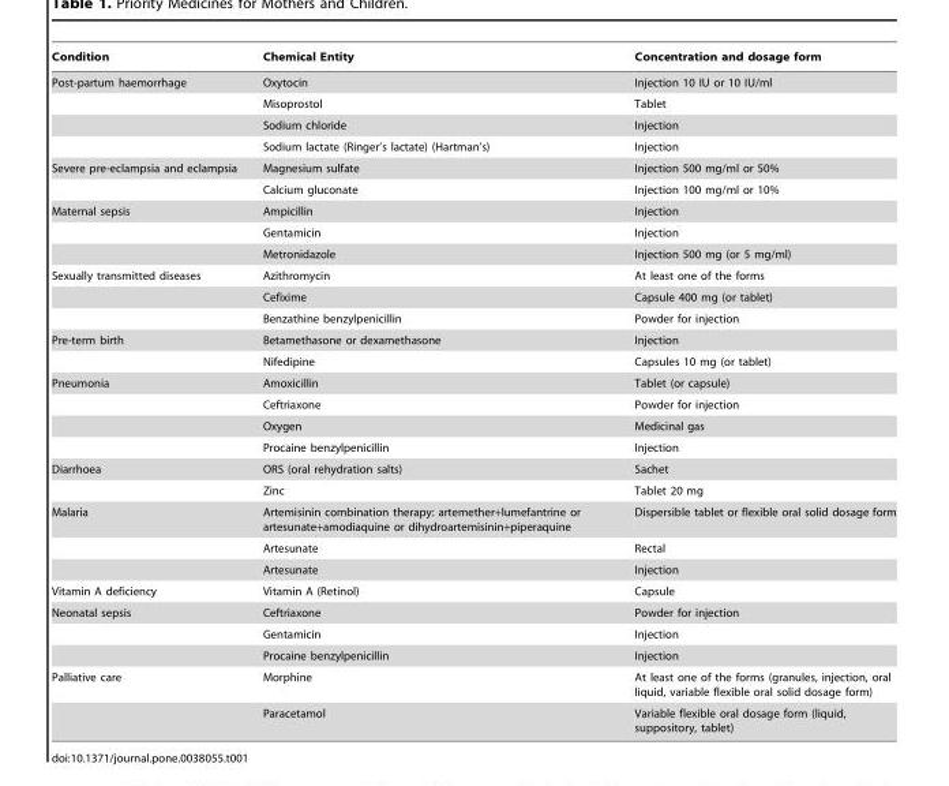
<table><thead><tr><td>Condition</td><td>Chemical Entity</td><td>Concentration and dosage form</td></tr></thead><tbody><tr><td rowspan="4">Post-partum haemorrhage</td><td>Oxytocin</td><td>Injection 10 IU or 10 IU/ml</td></tr><tr><td>Misoprostol</td><td>Tablet</td></tr><tr><td>Sodium chloride</td><td>Injection</td></tr><tr><td>Sodium lactate (Ringer’s lactate) (Hartman’s)</td><td>Injection</td></tr><tr><td rowspan="2">Severe pre-eclampsia and eclampsia</td><td>Magnesium sulfate</td><td>Injection 500 mg/ml or 50%</td></tr><tr><td>Calcium gluconate</td><td>Injection 100 mg/ml or 10%</td></tr><tr><td rowspan="3">Maternal sepsis</td><td>Ampicillin</td><td>Injection</td></tr><tr><td>Gentamicin</td><td>Injection</td></tr><tr><td>Metronidazole</td><td>Injection 500 mg (or 5 mg/ml)</td></tr><tr><td rowspan="3">Sexually transmitted diseases</td><td>Azithromycin</td><td>At least one of the forms</td></tr><tr><td>Cefixime</td><td>Capsule 400 mg (or tablet)</td></tr><tr><td>Benzathine benzylpenicillin</td><td>Powder for injection</td></tr><tr><td rowspan="2">Pre-term birth</td><td>Betamethasone or dexamethasone</td><td>Injection</td></tr><tr><td>Nifedipine</td><td>Capsules 10 mg (or tablet)</td></tr><tr><td rowspan="4">Pneumonia</td><td>Amoxicillin</td><td>Tablet (or capsule)</td></tr><tr><td>Ceftriaxone</td><td>Powder for injection</td></tr><tr><td>Oxygen</td><td>Medicinal gas</td></tr><tr><td>Procaine benzylpenicillin</td><td>Injection</td></tr><tr><td rowspan="2">Diarrhoea</td><td>ORS (oral rehydration salts)</td><td>Sachet</td></tr><tr><td>Zinc</td><td>Tablet 20 mg</td></tr><tr><td rowspan="3">Malaria</td><td>Artemisinin combination therapy: artemether+lumefantrine or artesunate+amodiaquine or dihydroartemisinin+piperaquine</td><td>Dispersible tablet or flexible oral solid dosage form</td></tr><tr><td>Artesunate</td><td>Rectal</td></tr><tr><td>Artesunate</td><td>Injection</td></tr><tr><td>Vitamin A deficiency</td><td>Vitamin A (Retinol)</td><td>Capsule</td></tr><tr><td rowspan="3">Neonatal sepsis</td><td>Ceftriaxone</td><td>Powder for injection</td></tr><tr><td>Gentamicin</td><td>Injection</td></tr><tr><td>Procaine benzylpenicillin</td><td>Injection</td></tr><tr><td rowspan="2">Palliative care</td><td>Morphine</td><td>At least one of the forms (granules, injection, oral liquid, variable flexible oral solid dosage form)</td></tr><tr><td>Paracetamol</td><td>Variable flexible oral dosage form (liquid, suppository, tablet)</td></tr></tbody></table>